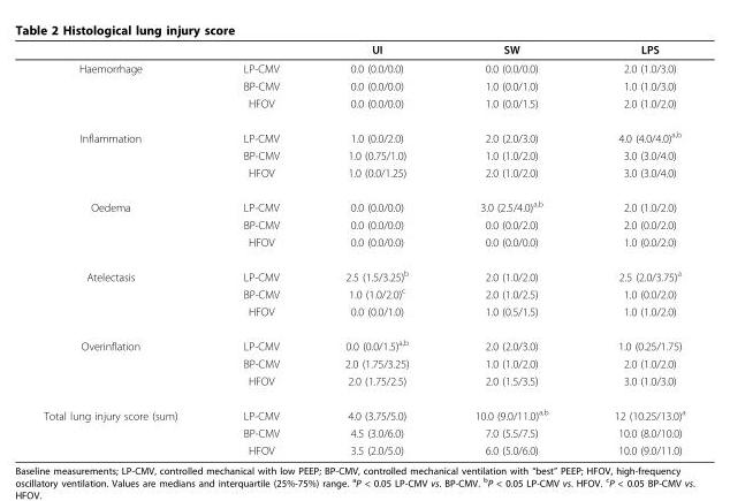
<table><thead><tr><td></td><td></td><td>UI</td><td>SW</td><td>LPS</td></tr></thead><tbody><tr><td rowspan="3">Haemorrhage</td><td>LP-CMV</td><td>0.0 (0.0/0.0)</td><td>0.0 (0.0/0.0)</td><td>2.0 (1.0/3.0)</td></tr><tr><td>BP-CMV</td><td>0.0 (0.0/0.0)</td><td>1.0 (0.0/1.0)</td><td>1.0 (1.0/3.0)</td></tr><tr><td>HFOV</td><td>0.0 (0.0/0.0)</td><td>1.0 (0.0/1.5)</td><td>2.0 (1.0/2.0)</td></tr><tr><td rowspan="3">Inflammation</td><td>LP-CMV</td><td>1.0 (0.0/2.0)</td><td>2.0 (2.0/3.0)</td><td>4.0 (4.0/4.0)<sup>a,b</sup></td></tr><tr><td>BP-CMV</td><td>1.0 (0.75/1.0)</td><td>1.0 (1.0/2.0)</td><td>3.0 (3.0/4.0)</td></tr><tr><td>HFOV</td><td>1.0 (0.0/1.25)</td><td>2.0 (1.0/2.0)</td><td>3.0 (3.0/4.0)</td></tr><tr><td rowspan="3">Oedema</td><td>LP-CMV</td><td>0.0 (0.0/0.0)</td><td>3.0 (2.5/4.0)<sup>a,b</sup></td><td>2.0 (1.0/2.0)</td></tr><tr><td>BP-CMV</td><td>0.0 (0.0/0.0)</td><td>0.0 (0.0/2.0)</td><td>2.0 (0.0/2.0)</td></tr><tr><td>HFOV</td><td>0.0 (0.0/0.0)</td><td>0.0 (0.0/0.0)</td><td>1.0 (0.0/2.0)</td></tr><tr><td rowspan="3">Atelectasis</td><td>LP-CMV</td><td>2.5 (1.5/3.25)<sup>b</sup></td><td>2.0 (1.0/2.0)</td><td>2.5 (2.0/3.75)<sup>a</sup></td></tr><tr><td>BP-CMV</td><td>1.0 (1.0/2.0)<sup>c</sup></td><td>2.0 (1.0/2.5)</td><td>1.0 (0.0/2.0)</td></tr><tr><td>HFOV</td><td>0.0 (0.0/1.0)</td><td>1.0 (0.5/1.5)</td><td>1.0 (1.0/2.0)</td></tr><tr><td rowspan="3">Overinflation</td><td>LP-CMV</td><td>0.0 (0.0/1.5)<sup>a,b</sup></td><td>2.0 (2.0/3.0)</td><td>1.0 (0.25/1.75)</td></tr><tr><td>BP-CMV</td><td>2.0 (1.75/3.25)</td><td>1.0 (1.0/2.0)</td><td>2.0 (1.0/2.0)</td></tr><tr><td>HFOV</td><td>2.0 (1.75/2.5)</td><td>2.0 (1.5/3.5)</td><td>3.0 (1.0/3.0)</td></tr><tr><td rowspan="3">Total lung injury score (sum)</td><td>LP-CMV</td><td>4.0 (3.75/5.0)</td><td>10.0 (9.0/11.0)<sup>a,b</sup></td><td>12 (10.25/13.0)<sup>a</sup></td></tr><tr><td>BP-CMV</td><td>4.5 (3.0/6.0)</td><td>7.0 (5.5/7.5)</td><td>10.0 (8.0/10.0)</td></tr><tr><td>HFOV</td><td>3.5 (2.0/5.0)</td><td>6.0 (5.0/6.0)</td><td>10.0 (9.0/11.0)</td></tr></tbody></table>